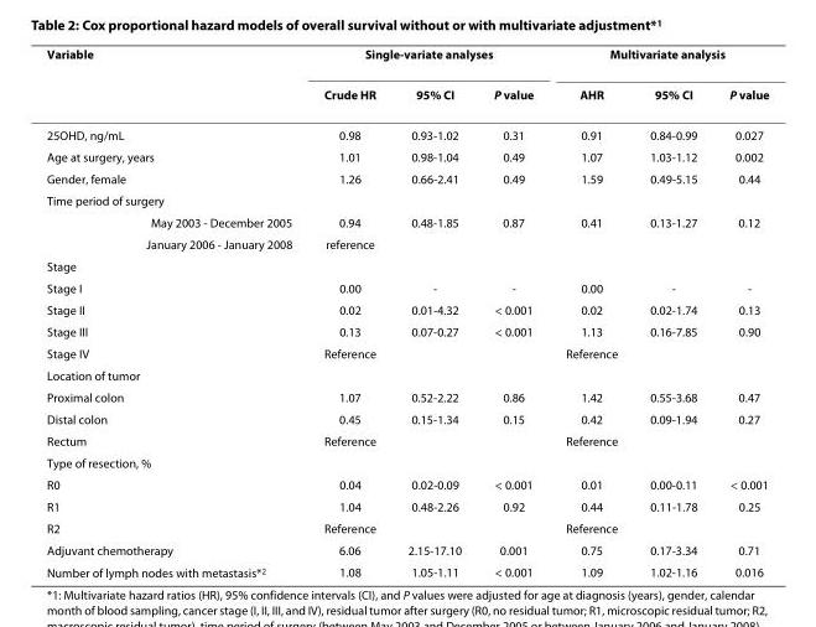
<table><thead><tr><td rowspan="2">Variable</td><td colspan="3">Single-variate analyses</td><td colspan="3">Multivariate analysis</td></tr><tr><td>Crude HR</td><td>95% CI</td><td>P value</td><td>AHR</td><td>95% CI</td><td>P value</td></tr></thead><tbody><tr><td>25OHD, ng/mL</td><td>0.98</td><td>0.93-1.02</td><td>0.31</td><td>0.91</td><td>0.84-0.99</td><td>0.027</td></tr><tr><td>Age at surgery, years</td><td>1.01</td><td>0.98-1.04</td><td>0.49</td><td>1.07</td><td>1.03-1.12</td><td>0.002</td></tr><tr><td>Gender, female</td><td>1.26</td><td>0.66-2.41</td><td>0.49</td><td>1.59</td><td>0.49-5.15</td><td>0.44</td></tr><tr><td colspan="7">Time period of surgery</td></tr><tr><td>May 2003 - December 2005</td><td>0.94</td><td>0.48-1.85</td><td>0.87</td><td>0.41</td><td>0.13-1.27</td><td>0.12</td></tr><tr><td>January 2006 - January 2008</td><td>reference</td><td></td><td></td><td></td><td></td><td></td></tr><tr><td colspan="7">Stage</td></tr><tr><td>Stage I</td><td>0.00</td><td>-</td><td>-</td><td>0.00</td><td>-</td><td>-</td></tr><tr><td>Stage II</td><td>0.02</td><td>0.01-4.32</td><td>&lt; 0.001</td><td>0.02</td><td>0.02-1.74</td><td>0.13</td></tr><tr><td>Stage III</td><td>0.13</td><td>0.07-0.27</td><td>&lt; 0.001</td><td>1.13</td><td>0.16-7.85</td><td>0.90</td></tr><tr><td>Stage IV</td><td>Reference</td><td></td><td></td><td>Reference</td><td></td><td></td></tr><tr><td colspan="7">Location of tumor</td></tr><tr><td>Proximal colon</td><td>1.07</td><td>0.52-2.22</td><td>0.86</td><td>1.42</td><td>0.55-3.68</td><td>0.47</td></tr><tr><td>Distal colon</td><td>0.45</td><td>0.15-1.34</td><td>0.15</td><td>0.42</td><td>0.09-1.94</td><td>0.27</td></tr><tr><td>Rectum</td><td>Reference</td><td></td><td></td><td>Reference</td><td></td><td></td></tr><tr><td colspan="7">Type of resection, %</td></tr><tr><td>R0</td><td>0.04</td><td>0.02-0.09</td><td>&lt; 0.001</td><td>0.01</td><td>0.00-0.11</td><td>&lt; 0.001</td></tr><tr><td>R1</td><td>1.04</td><td>0.48-2.26</td><td>0.92</td><td>0.44</td><td>0.11-1.78</td><td>0.25</td></tr><tr><td>R2</td><td>Reference</td><td></td><td></td><td>Reference</td><td></td><td></td></tr><tr><td>Adjuvant chemotherapy</td><td>6.06</td><td>2.15-17.10</td><td>0.001</td><td>0.75</td><td>0.17-3.34</td><td>0.71</td></tr><tr><td>Number of lymph nodes with metastasis*<sup>2</sup></td><td>1.08</td><td>1.05-1.11</td><td>&lt; 0.001</td><td>1.09</td><td>1.02-1.16</td><td>0.016</td></tr></tbody></table>